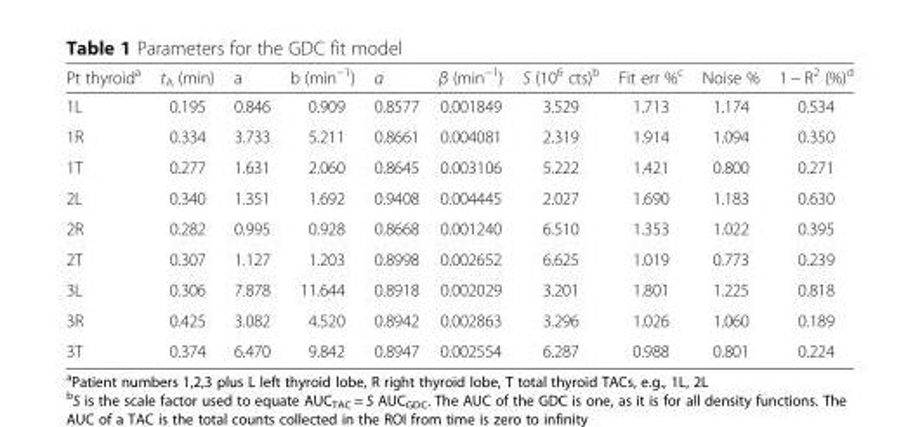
<table><thead><tr><td>Pt thyroid<sup>a</sup></td><td>t<sub>A</sub> (min)</td><td>a</td><td>b (min<sup>−1</sup>)</td><td>α</td><td>β (min<sup>−1</sup>)</td><td>S (10<sup>6</sup> cts)<sup>b</sup></td><td>Fit err %<sup>c</sup></td><td>Noise %</td><td>1 − R<sup>2</sup> (%)<sup>d</sup></td></tr></thead><tbody><tr><td>1L</td><td>0.195</td><td>0.846</td><td>0.909</td><td>0.8577</td><td>0.001849</td><td>3.529</td><td>1.713</td><td>1.174</td><td>0.534</td></tr><tr><td>1R</td><td>0.334</td><td>3.733</td><td>5.211</td><td>0.8661</td><td>0.004081</td><td>2.319</td><td>1.914</td><td>1.094</td><td>0.350</td></tr><tr><td>1T</td><td>0.277</td><td>1.631</td><td>2.060</td><td>0.8645</td><td>0.003106</td><td>5.222</td><td>1.421</td><td>0.800</td><td>0.271</td></tr><tr><td>2L</td><td>0.340</td><td>1.351</td><td>1.692</td><td>0.9408</td><td>0.004445</td><td>2.027</td><td>1.690</td><td>1.183</td><td>0.630</td></tr><tr><td>2R</td><td>0.282</td><td>0.995</td><td>0.928</td><td>0.8668</td><td>0.001240</td><td>6.510</td><td>1.353</td><td>1.022</td><td>0.395</td></tr><tr><td>2T</td><td>0.307</td><td>1.127</td><td>1.203</td><td>0.8998</td><td>0.002652</td><td>6.625</td><td>1.019</td><td>0.773</td><td>0.239</td></tr><tr><td>3L</td><td>0.306</td><td>7.878</td><td>11.644</td><td>0.8918</td><td>0.002029</td><td>3.201</td><td>1.801</td><td>1.225</td><td>0.818</td></tr><tr><td>3R</td><td>0.425</td><td>3.082</td><td>4.520</td><td>0.8942</td><td>0.002863</td><td>3.296</td><td>1.026</td><td>1.060</td><td>0.189</td></tr><tr><td>3T</td><td>0.374</td><td>6.470</td><td>9.842</td><td>0.8947</td><td>0.002554</td><td>6.287</td><td>0.988</td><td>0.801</td><td>0.224</td></tr></tbody></table>